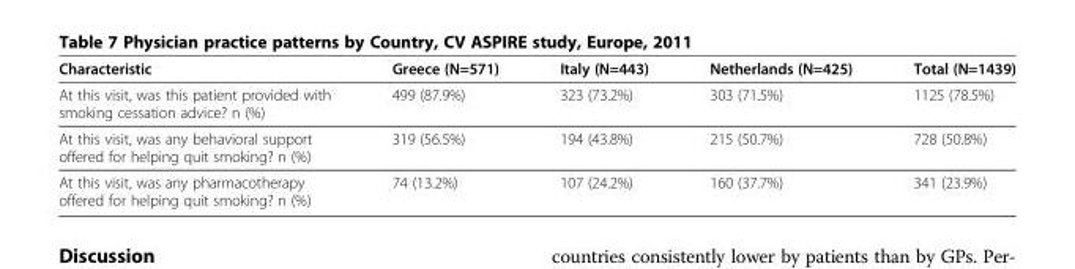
<table><thead><tr><td>Characteristic</td><td>Greece (N=571)</td><td>Italy (N=443)</td><td>Netherlands (N=425)</td><td>Total (N=1439)</td></tr></thead><tbody><tr><td>At this visit, was this patient provided with smoking cessation advice? n (%)</td><td>499 (87.9%)</td><td>323 (73.2%)</td><td>303 (71.5%)</td><td>1125 (78.5%)</td></tr><tr><td>At this visit, was any behavioral support offered for helping quit smoking? n (%)</td><td>319 (56.5%)</td><td>194 (43.8%)</td><td>215 (50.7%)</td><td>728 (50.8%)</td></tr><tr><td>At this visit, was any pharmacotherapy offered for helping quit smoking? n (%)</td><td>74 (13.2%)</td><td>107 (24.2%)</td><td>160 (37.7%)</td><td>341 (23.9%)</td></tr></tbody></table>